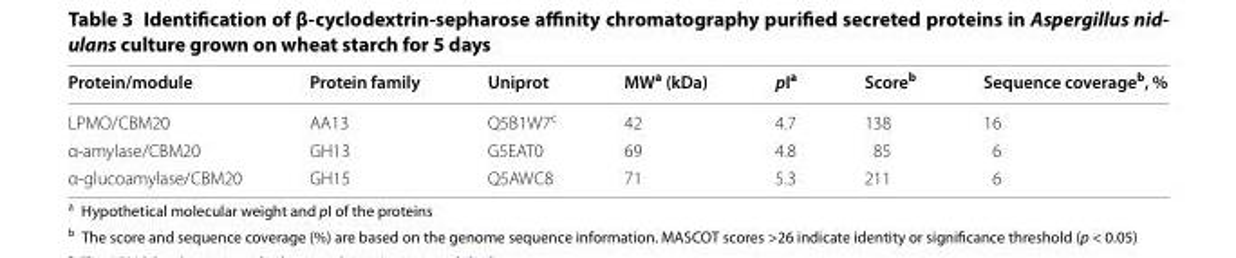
<table><thead><tr><td>Protein/module</td><td>Protein family</td><td>Uniprot</td><td>MW<sup>a</sup> (kDa)</td><td>pI<sup>a</sup></td><td>Score<sup>b</sup></td><td>Sequence coverage<sup>b</sup>, %</td></tr></thead><tbody><tr><td>LPMO/CBM20</td><td>AA13</td><td>Q5B1W7<sup>c</sup></td><td>42</td><td>4.7</td><td>138</td><td>16</td></tr><tr><td>α‑amylase/CBM20</td><td>GH13</td><td>G5EAT0</td><td>69</td><td>4.8</td><td>85</td><td>6</td></tr><tr><td>α‑glucoamylase/CBM20</td><td>GH15</td><td>Q5AWC8</td><td>71</td><td>5.3</td><td>211</td><td>6</td></tr></tbody></table>